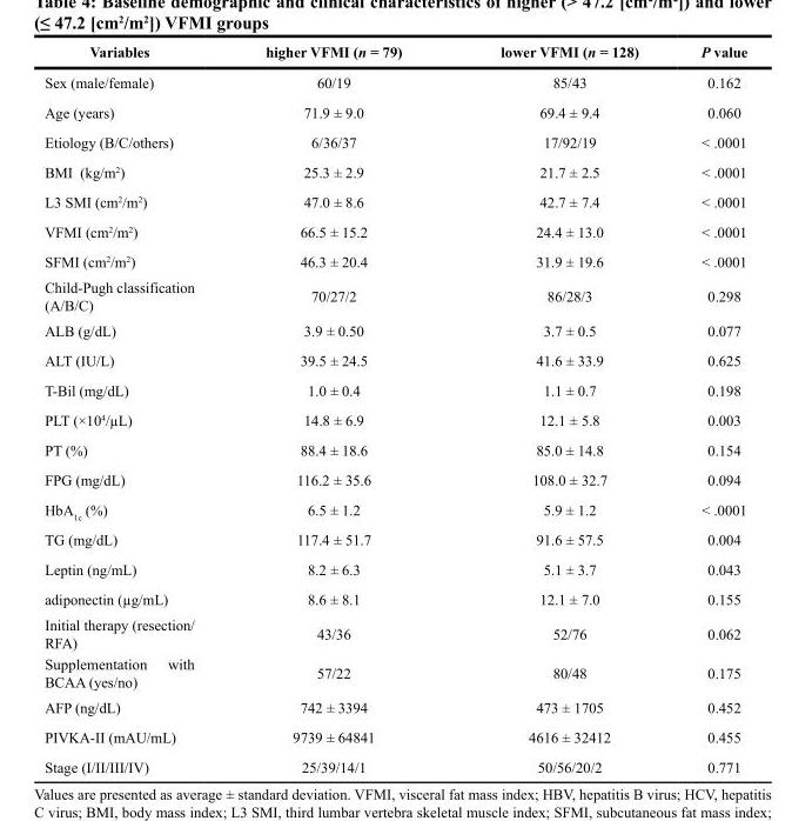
<table><thead><tr><td>Variables</td><td>higher VFMI (n = 79)</td><td>lower VFMI (n = 128)</td><td>P value</td></tr></thead><tbody><tr><td>Sex (male/female)</td><td>60/19</td><td>85/43</td><td>0.162</td></tr><tr><td>Age (years)</td><td>71.9 ± 9.0</td><td>69.4 ± 9.4</td><td>0.060</td></tr><tr><td>Etiology (B/C/others)</td><td>6/36/37</td><td>17/92/19</td><td>&lt; .0001</td></tr><tr><td>BMI (kg/m<sup>2</sup>)</td><td>25.3 ± 2.9</td><td>21.7 ± 2.5</td><td>&lt; .0001</td></tr><tr><td>L3 SMI (cm<sup>2</sup>/m<sup>2</sup>)</td><td>47.0 ± 8.6</td><td>42.7 ± 7.4</td><td>&lt; .0001</td></tr><tr><td>VFMI (cm<sup>2</sup>/m<sup>2</sup>)</td><td>66.5 ± 15.2</td><td>24.4 ± 13.0</td><td>&lt; .0001</td></tr><tr><td>SFMI (cm<sup>2</sup>/m<sup>2</sup>)</td><td>46.3 ± 20.4</td><td>31.9 ± 19.6</td><td>&lt; .0001</td></tr><tr><td>Child-Pugh classification (A/B/C)</td><td>70/27/2</td><td>86/28/3</td><td>0.298</td></tr><tr><td>ALB (g/dL)</td><td>3.9 ± 0.50</td><td>3.7 ± 0.5</td><td>0.077</td></tr><tr><td>ALT (IU/L)</td><td>39.5 ± 24.5</td><td>41.6 ± 33.9</td><td>0.625</td></tr><tr><td>T-Bil (mg/dL)</td><td>1.0 ± 0.4</td><td>1.1 ± 0.7</td><td>0.198</td></tr><tr><td>PLT (×10<sup>4</sup>/µL)</td><td>14.8 ± 6.9</td><td>12.1 ± 5.8</td><td>0.003</td></tr><tr><td>PT (%)</td><td>88.4 ± 18.6</td><td>85.0 ± 14.8</td><td>0.154</td></tr><tr><td>FPG (mg/dL)</td><td>116.2 ± 35.6</td><td>108.0 ± 32.7</td><td>0.094</td></tr><tr><td>HbA<sub>1c</sub> (%)</td><td>6.5 ± 1.2</td><td>5.9 ± 1.2</td><td>&lt; .0001</td></tr><tr><td>TG (mg/dL)</td><td>117.4 ± 51.7</td><td>91.6 ± 57.5</td><td>0.004</td></tr><tr><td>Leptin (ng/mL)</td><td>8.2 ± 6.3</td><td>5.1 ± 3.7</td><td>0.043</td></tr><tr><td>adiponectin (µg/mL)</td><td>8.6 ± 8.1</td><td>12.1 ± 7.0</td><td>0.155</td></tr><tr><td>Initial therapy (resection/ RFA)</td><td>43/36</td><td>52/76</td><td>0.062</td></tr><tr><td>Supplementation with BCAA (yes/no)</td><td>57/22</td><td>80/48</td><td>0.175</td></tr><tr><td>AFP (ng/dL)</td><td>742 ± 3394</td><td>473 ± 1705</td><td>0.452</td></tr><tr><td>PIVKA-II (mAU/mL)</td><td>9739 ± 64841</td><td>4616 ± 32412</td><td>0.455</td></tr><tr><td>Stage (I/II/III/IV)</td><td>25/39/14/1</td><td>50/56/20/2</td><td>0.771</td></tr></tbody></table>